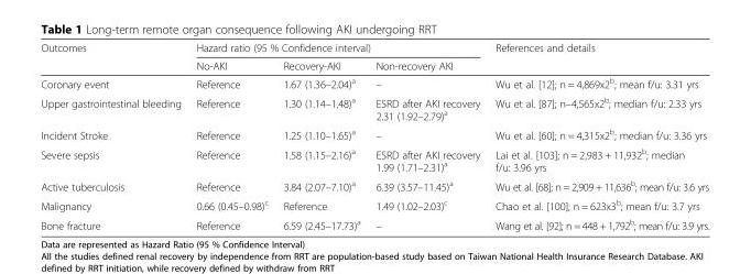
<table><thead><tr><td rowspan="2">Outcomes</td><td colspan="3">Hazard ratio (95 % Confidence interval)</td><td rowspan="2">References and details</td></tr><tr><td>No-AKI</td><td>Recovery-AKI</td><td>Non-recovery AKI</td></tr></thead><tbody><tr><td>Coronary event</td><td>Reference</td><td>1.67 (1.36–2.04)<sup>a</sup></td><td>–</td><td>Wu et al. [12]; n = 4,869x2<sup>b</sup>; mean f/u: 3.31 yrs</td></tr><tr><td>Upper gastrointestinal bleeding</td><td>Reference</td><td>1.30 (1.14–1.48)<sup>a</sup></td><td>ESRD after AKI recovery 2.31 (1.92–2.79)<sup>a</sup></td><td>Wu et al. [87]; n–4,565x2<sup>b</sup>; median f/u: 2.33 yrs</td></tr><tr><td>Incident Stroke</td><td>Reference</td><td>1.25 (1.10–1.65)<sup>a</sup></td><td>–</td><td>Wu et al. [60]; n = 4,315x2<sup>b</sup>; median f/u: 3.36 yrs</td></tr><tr><td>Severe sepsis</td><td>Reference</td><td>1.58 (1.15–2.16)<sup>a</sup></td><td>ESRD after AKI recovery 1.99 (1.71–2.31)<sup>a</sup></td><td>Lai et al. [103]; n = 2,983 + 11,932<sup>b</sup>; median f/u: 3.96 yrs</td></tr><tr><td>Active tuberculosis</td><td>Reference</td><td>3.84 (2.07–7.10)<sup>a</sup></td><td>6.39 (3.57–11.45)<sup>a</sup></td><td>Wu et al. [68]; n = 2,909 + 11,636<sup>b</sup>; mean f/u: 3.6 yrs</td></tr><tr><td>Malignancy</td><td>0.66 (0.45–0.98)<sup>c</sup></td><td>Reference</td><td>1.49 (1.02–2.03)<sup>c</sup></td><td>Chao et al. [100]; n = 623x3<sup>b</sup>; mean f/u: 3.7 yrs</td></tr><tr><td>Bone fracture</td><td>Reference</td><td>6.59 (2.45–17.73)<sup>a</sup></td><td>–</td><td>Wang et al. [92]; n = 448 + 1,792<sup>b</sup>; mean f/u: 3.9 yrs.</td></tr></tbody></table>